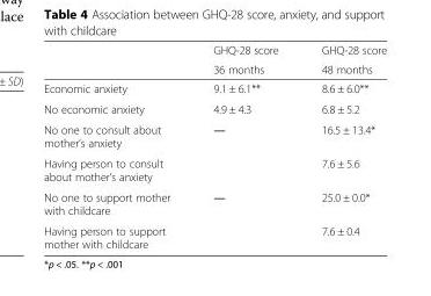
<table><thead><tr><td rowspan="2"></td><td rowspan="2">GHQ-28 score 36 months</td><td rowspan="2">GHQ-28 score 48 months</td></tr><tr></tr></thead><tbody><tr><td>Economic anxiety</td><td>9.1 ± 6.1**</td><td>8.6 ± 6.0**</td></tr><tr><td>No economic anxiety</td><td>4.9 ± 4.3</td><td>6.8 ± 5.2</td></tr><tr><td>No one to consult about mother’s anxiety</td><td rowspan="2">―</td><td>16.5 ± 13.4*</td></tr><tr><td>Having person to consult about mother’s anxiety</td><td>7.6 ± 5.6</td></tr><tr><td>No one to support mother with childcare</td><td rowspan="2">―</td><td>25.0 ± 0.0*</td></tr><tr><td>Having person to support mother with childcare</td><td>7.6 ± 0.4</td></tr></tbody></table>